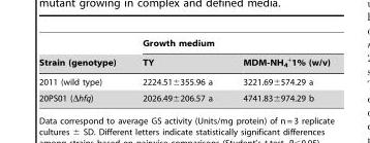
<table><thead><tr><td rowspan="2">Strain (genotype)</td><td colspan="2">Growth medium</td></tr><tr><td>TY</td><td>MDM-NH<sub>4</sub> <sup>+</sup>1% (w/v)</td></tr></thead><tbody><tr><td>2011 (wild type)</td><td>2224.51±355.96 a</td><td>3221.69±574.29 a</td></tr><tr><td>20PS01 (Δhfq)</td><td>2026.49±206.57 a</td><td>4741.83±974.29 b</td></tr></tbody></table>